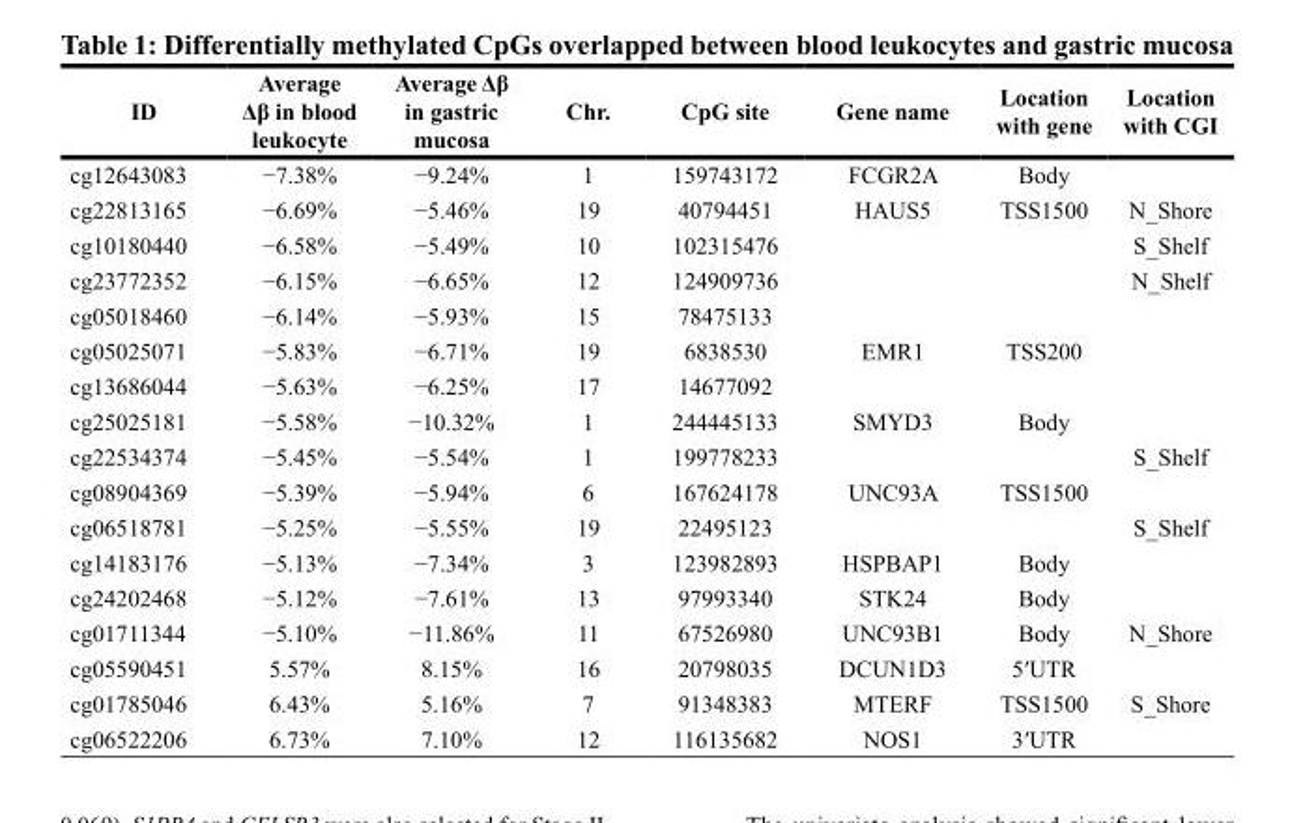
<table><thead><tr><td>ID</td><td>Average Δβ in blood leukocyte</td><td>Average Δβ in gastric mucosa</td><td>Chr.</td><td>CpG site</td><td>Gene name</td><td>Location with gene</td><td>Location with CGI</td></tr></thead><tbody><tr><td>cg12643083</td><td>−7.38%</td><td>−9.24%</td><td>1</td><td>159743172</td><td>FCGR2A</td><td>Body</td><td></td></tr><tr><td>cg22813165</td><td>−6.69%</td><td>−5.46%</td><td>19</td><td>40794451</td><td>HAUS5</td><td>TSS1500</td><td>N_Shore</td></tr><tr><td>cg10180440</td><td>−6.58%</td><td>−5.49%</td><td>10</td><td>102315476</td><td></td><td></td><td>S_Shelf</td></tr><tr><td>cg23772352</td><td>−6.15%</td><td>−6.65%</td><td>12</td><td>124909736</td><td></td><td></td><td>N_Shelf</td></tr><tr><td>cg05018460</td><td>−6.14%</td><td>−5.93%</td><td>15</td><td>78475133</td><td></td><td></td><td></td></tr><tr><td>cg05025071</td><td>−5.83%</td><td>−6.71%</td><td>19</td><td>6838530</td><td>EMR1</td><td>TSS200</td><td></td></tr><tr><td>cg13686044</td><td>−5.63%</td><td>−6.25%</td><td>17</td><td>14677092</td><td></td><td></td><td></td></tr><tr><td>cg25025181</td><td>−5.58%</td><td>−10.32%</td><td>1</td><td>244445133</td><td>SMYD3</td><td>Body</td><td></td></tr><tr><td>cg22534374</td><td>−5.45%</td><td>−5.54%</td><td>1</td><td>199778233</td><td></td><td></td><td>S_Shelf</td></tr><tr><td>cg08904369</td><td>−5.39%</td><td>−5.94%</td><td>6</td><td>167624178</td><td>UNC93A</td><td>TSS1500</td><td></td></tr><tr><td>cg06518781</td><td>−5.25%</td><td>−5.55%</td><td>19</td><td>22495123</td><td></td><td></td><td>S_Shelf</td></tr><tr><td>cg14183176</td><td>−5.13%</td><td>−7.34%</td><td>3</td><td>123982893</td><td>HSPBAP1</td><td>Body</td><td></td></tr><tr><td>cg24202468</td><td>−5.12%</td><td>−7.61%</td><td>13</td><td>97993340</td><td>STK24</td><td>Body</td><td></td></tr><tr><td>cg01711344</td><td>−5.10%</td><td>−11.86%</td><td>11</td><td>67526980</td><td>UNC93B1</td><td>Body</td><td>N_Shore</td></tr><tr><td>cg05590451</td><td>5.57%</td><td>8.15%</td><td>16</td><td>20798035</td><td>DCUN1D3</td><td>5′UTR</td><td></td></tr><tr><td>cg01785046</td><td>6.43%</td><td>5.16%</td><td>7</td><td>91348383</td><td>MTERF</td><td>TSS1500</td><td>S_Shore</td></tr><tr><td>cg06522206</td><td>6.73%</td><td>7.10%</td><td>12</td><td>116135682</td><td>NOS1</td><td>3′UTR</td><td></td></tr></tbody></table>